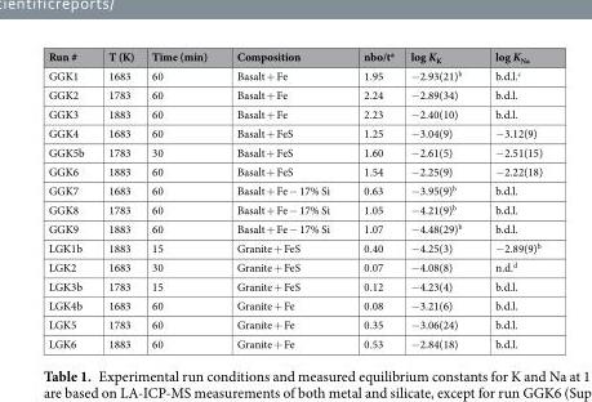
<table><thead><tr><td>Run #</td><td>T (K)</td><td>Time (min)</td><td>Composition</td><td>nbo/t<sup>a</sup></td><td>log K<sub>K</sub></td><td>log K<sub>Na</sub></td></tr></thead><tbody><tr><td>GGK1</td><td>1683</td><td>60</td><td>Basalt + Fe</td><td>1.95</td><td>−2.93(21)<sup>b</sup></td><td>b.d.l.<sup>c</sup></td></tr><tr><td>GGK2</td><td>1783</td><td>60</td><td>Basalt + Fe</td><td>2.24</td><td>−2.89(34)</td><td>b.d.l.</td></tr><tr><td>GGK3</td><td>1883</td><td>60</td><td>Basalt + Fe</td><td>2.23</td><td>−2.40(10)</td><td>b.d.l.</td></tr><tr><td>GGK4</td><td>1683</td><td>60</td><td>Basalt + FeS</td><td>1.25</td><td>−3.04(9)</td><td>−3.12(9)</td></tr><tr><td>GGK5b</td><td>1783</td><td>30</td><td>Basalt + FeS</td><td>1.60</td><td>−2.61(5)</td><td>−2.51(15)</td></tr><tr><td>GGK6</td><td>1883</td><td>60</td><td>Basalt + FeS</td><td>1.54</td><td>−2.25(9)</td><td>−2.22(18)</td></tr><tr><td>GGK7</td><td>1683</td><td>60</td><td>Basalt + Fe − 17% Si</td><td>0.63</td><td>−3.95(9)<sup>b</sup></td><td>b.d.l.</td></tr><tr><td>GGK8</td><td>1783</td><td>60</td><td>Basalt + Fe − 17% Si</td><td>1.05</td><td>−4.21(9)<sup>b</sup></td><td>b.d.l.</td></tr><tr><td>GGK9</td><td>1883</td><td>60</td><td>Basalt + Fe − 17% Si</td><td>1.07</td><td>−4.48(29)<sup>b</sup></td><td>b.d.l.</td></tr><tr><td>LGK1b</td><td>1883</td><td>15</td><td>Granite + FeS</td><td>0.40</td><td>−4.25(3)</td><td>−2.89(9)<sup>b</sup></td></tr><tr><td>LGK2</td><td>1683</td><td>30</td><td>Granite + FeS</td><td>0.07</td><td>−4.08(8)</td><td>n.d.<sup>d</sup></td></tr><tr><td>LGK3b</td><td>1783</td><td>15</td><td>Granite + FeS</td><td>0.12</td><td>−4.23(4)</td><td>b.d.l.</td></tr><tr><td>LGK4b</td><td>1683</td><td>60</td><td>Granite + Fe</td><td>0.08</td><td>−3.21(6)</td><td>b.d.l.</td></tr><tr><td>LGK5</td><td>1783</td><td>60</td><td>Granite + Fe</td><td>0.35</td><td>−3.06(24)</td><td>b.d.l.</td></tr><tr><td>LGK6</td><td>1883</td><td>60</td><td>Granite + Fe</td><td>0.53</td><td>−2.84(18)</td><td>b.d.l.</td></tr></tbody></table>